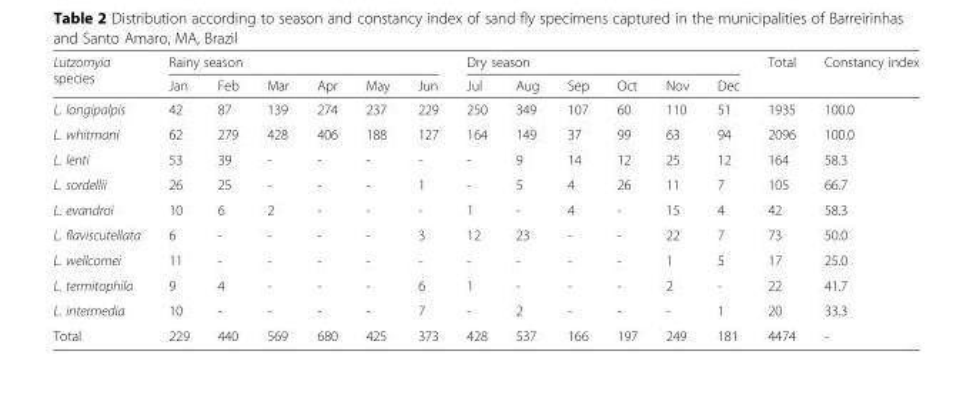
<table><thead><tr><td rowspan="2">Lutzomyia species</td><td colspan="6">Rainy season</td><td colspan="6">Dry season</td><td rowspan="2">Total</td><td rowspan="2">Constancy index</td></tr><tr><td>Jan</td><td>Feb</td><td>Mar</td><td>Apr</td><td>May</td><td>Jun</td><td>Jul</td><td>Aug</td><td>Sep</td><td>Oct</td><td>Nov</td><td>Dec</td></tr></thead><tbody><tr><td>L. longipalpis</td><td>42</td><td>87</td><td>139</td><td>274</td><td>237</td><td>229</td><td>250</td><td>349</td><td>107</td><td>60</td><td>110</td><td>51</td><td>1935</td><td>100.0</td></tr><tr><td>L. whitmani</td><td>62</td><td>279</td><td>428</td><td>406</td><td>188</td><td>127</td><td>164</td><td>149</td><td>37</td><td>99</td><td>63</td><td>94</td><td>2096</td><td>100.0</td></tr><tr><td>L. lenti</td><td>53</td><td>39</td><td>-</td><td>-</td><td>-</td><td>-</td><td>-</td><td>9</td><td>14</td><td>12</td><td>25</td><td>12</td><td>164</td><td>58.3</td></tr><tr><td>L. sordellii</td><td>26</td><td>25</td><td>-</td><td>-</td><td>-</td><td>1</td><td>-</td><td>5</td><td>4</td><td>26</td><td>11</td><td>7</td><td>105</td><td>66.7</td></tr><tr><td>L. evandroi</td><td>10</td><td>6</td><td>2</td><td>-</td><td>-</td><td>-</td><td>1</td><td>-</td><td>4</td><td>-</td><td>15</td><td>4</td><td>42</td><td>58.3</td></tr><tr><td>L. flaviscutellata</td><td>6</td><td>-</td><td>-</td><td>-</td><td>-</td><td>3</td><td>12</td><td>23</td><td>-</td><td>-</td><td>22</td><td>7</td><td>73</td><td>50.0</td></tr><tr><td>L. wellcomei</td><td>11</td><td>-</td><td>-</td><td>-</td><td>-</td><td>-</td><td>-</td><td>-</td><td>-</td><td>-</td><td>1</td><td>5</td><td>17</td><td>25.0</td></tr><tr><td>L. termitophila</td><td>9</td><td>4</td><td>-</td><td>-</td><td>-</td><td>6</td><td>1</td><td>-</td><td>-</td><td>-</td><td>2</td><td>-</td><td>22</td><td>41.7</td></tr><tr><td>L. intermedia</td><td>10</td><td>-</td><td>-</td><td>-</td><td>-</td><td>7</td><td>-</td><td>2</td><td>-</td><td>-</td><td>-</td><td>1</td><td>20</td><td>33.3</td></tr><tr><td>Total</td><td>229</td><td>440</td><td>569</td><td>680</td><td>425</td><td>373</td><td>428</td><td>537</td><td>166</td><td>197</td><td>249</td><td>181</td><td>4474</td><td>-</td></tr></tbody></table>